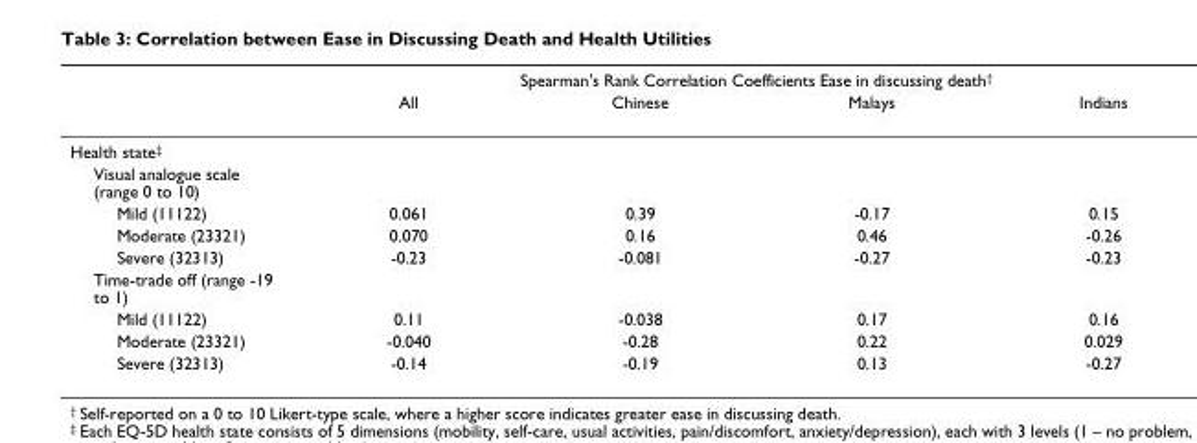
<table><thead><tr><td rowspan="2"></td><td colspan="4">Spearman&#x27;s Rank Correlation Coefficients Ease in discussing death<sup>†</sup></td></tr><tr><td>All</td><td>Chinese</td><td>Malays</td><td>Indians</td></tr></thead><tbody><tr><td colspan="5">Health state<sup>‡</sup></td></tr><tr><td colspan="5">Visual analogue scale (range 0 to 10)</td></tr><tr><td>Mild (11122)</td><td>0.061</td><td>0.39</td><td>-0.17</td><td>0.15</td></tr><tr><td>Moderate (23321)</td><td>0.070</td><td>0.16</td><td>0.46</td><td>-0.26</td></tr><tr><td>Severe (32313)</td><td>-0.23</td><td>-0.081</td><td>-0.27</td><td>-0.23</td></tr><tr><td colspan="5">Time-trade off (range -19 to 1)</td></tr><tr><td>Mild (11122)</td><td>0.11</td><td>-0.038</td><td>0.17</td><td>0.16</td></tr><tr><td>Moderate (23321)</td><td>-0.040</td><td>-0.28</td><td>0.22</td><td>0.029</td></tr><tr><td>Severe (32313)</td><td>-0.14</td><td>-0.19</td><td>0.13</td><td>-0.27</td></tr></tbody></table>